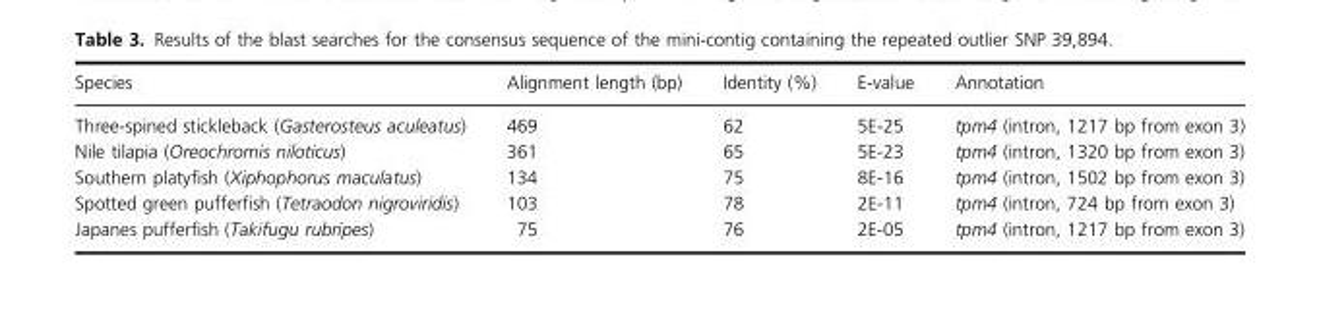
<table><thead><tr><td>Species</td><td>Alignment length (bp)</td><td>Identity (%)</td><td>E-value</td><td>Annotation</td></tr></thead><tbody><tr><td>Three-spined stickleback (Gasterosteus aculeatus)</td><td>469</td><td>62</td><td>5E-25</td><td>tpm4 (intron, 1217 bp from exon 3)</td></tr><tr><td>Nile tilapia (Oreochromis niloticus)</td><td>361</td><td>65</td><td>5E-23</td><td>tpm4 (intron, 1320 bp from exon 3)</td></tr><tr><td>Southern platyfish (Xiphophorus maculatus)</td><td>134</td><td>75</td><td>8E-16</td><td>tpm4 (intron, 1502 bp from exon 3)</td></tr><tr><td>Spotted green pufferfish (Tetraodon nigroviridis)</td><td>103</td><td>78</td><td>2E-11</td><td>tpm4 (intron, 724 bp from exon 3)</td></tr><tr><td>Japanes pufferfish (Takifugu rubripes)</td><td>75</td><td>76</td><td>2E-05</td><td>tpm4 (intron, 1217 bp from exon 3)</td></tr></tbody></table>